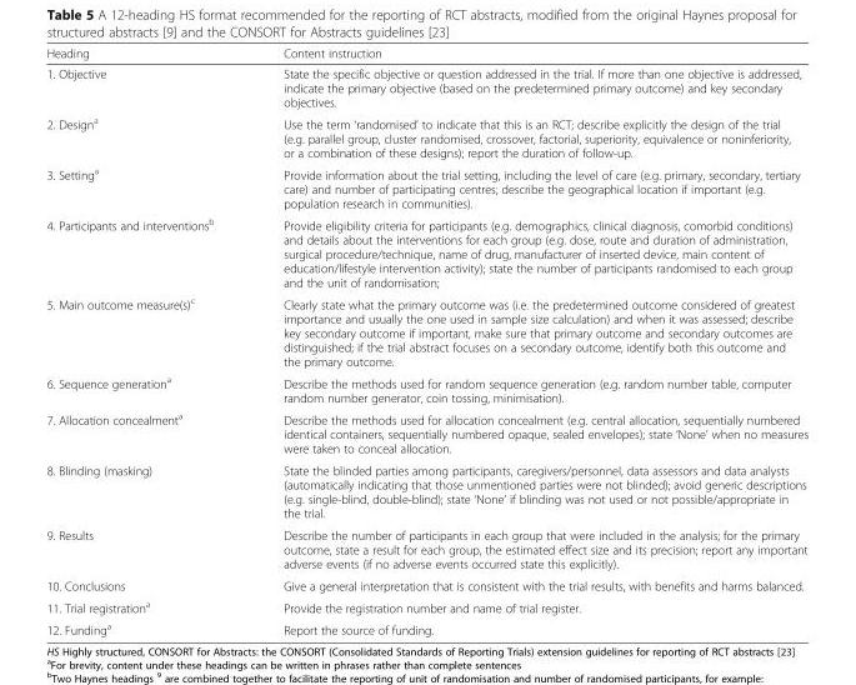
<table><thead><tr><td>Heading</td><td>Content instruction</td></tr></thead><tbody><tr><td>1. Objective</td><td>State the specific objective or question addressed in the trial. If more than one objective is addressed, indicate the primary objective (based on the predetermined primary outcome) and key secondary objectives.</td></tr><tr><td>2. Design<sup>a</sup></td><td>Use the term ‘randomised’ to indicate that this is an RCT; describe explicitly the design of the trial (e.g. parallel group, cluster randomised, crossover, factorial, superiority, equivalence or noninferiority, or a combination of these designs); report the duration of follow-up.</td></tr><tr><td>3. Setting<sup>a</sup></td><td>Provide information about the trial setting, including the level of care (e.g. primary, secondary, tertiary care) and number of participating centres; describe the geographical location if important (e.g. population research in communities).</td></tr><tr><td>4. Participants and interventions<sup>b</sup></td><td>Provide eligibility criteria for participants (e.g. demographics, clinical diagnosis, comorbid conditions) and details about the interventions for each group (e.g. dose, route and duration of administration, surgical procedure/technique, name of drug, manufacturer of inserted device, main content of education/lifestyle intervention activity); state the number of participants randomised to each group and the unit of randomisation;</td></tr><tr><td>5. Main outcome measure(s)<sup>c</sup></td><td>Clearly state what the primary outcome was (i.e. the predetermined outcome considered of greatest importance and usually the one used in sample size calculation) and when it was assessed; describe key secondary outcome if important, make sure that primary outcome and secondary outcomes are distinguished; if the trial abstract focuses on a secondary outcome, identify both this outcome and the primary outcome.</td></tr><tr><td>6. Sequence generation<sup>a</sup></td><td>Describe the methods used for random sequence generation (e.g. random number table, computer random number generator, coin tossing, minimisation).</td></tr><tr><td>7. Allocation concealment<sup>a</sup></td><td>Describe the methods used for allocation concealment (e.g. central allocation, sequentially numbered identical containers, sequentially numbered opaque, sealed envelopes); state ‘None’ when no measures were taken to conceal allocation.</td></tr><tr><td>8. Blinding (masking)</td><td>State the blinded parties among participants, caregivers/personnel, data assessors and data analysts (automatically indicating that those unmentioned parties were not blinded); avoid generic descriptions (e.g. single-blind, double-blind); state ‘None’ if blinding was not used or not possible/appropriate in the trial.</td></tr><tr><td>9. Results</td><td>Describe the number of participants in each group that were included in the analysis; for the primary outcome, state a result for each group, the estimated effect size and its precision; report any important adverse events (if no adverse events occurred state this explicitly).</td></tr><tr><td>10. Conclusions</td><td>Give a general interpretation that is consistent with the trial results, with benefits and harms balanced.</td></tr><tr><td>11. Trial registration<sup>a</sup></td><td>Provide the registration number and name of trial register.</td></tr><tr><td>12. Funding<sup>a</sup></td><td>Report the source of funding.</td></tr></tbody></table>